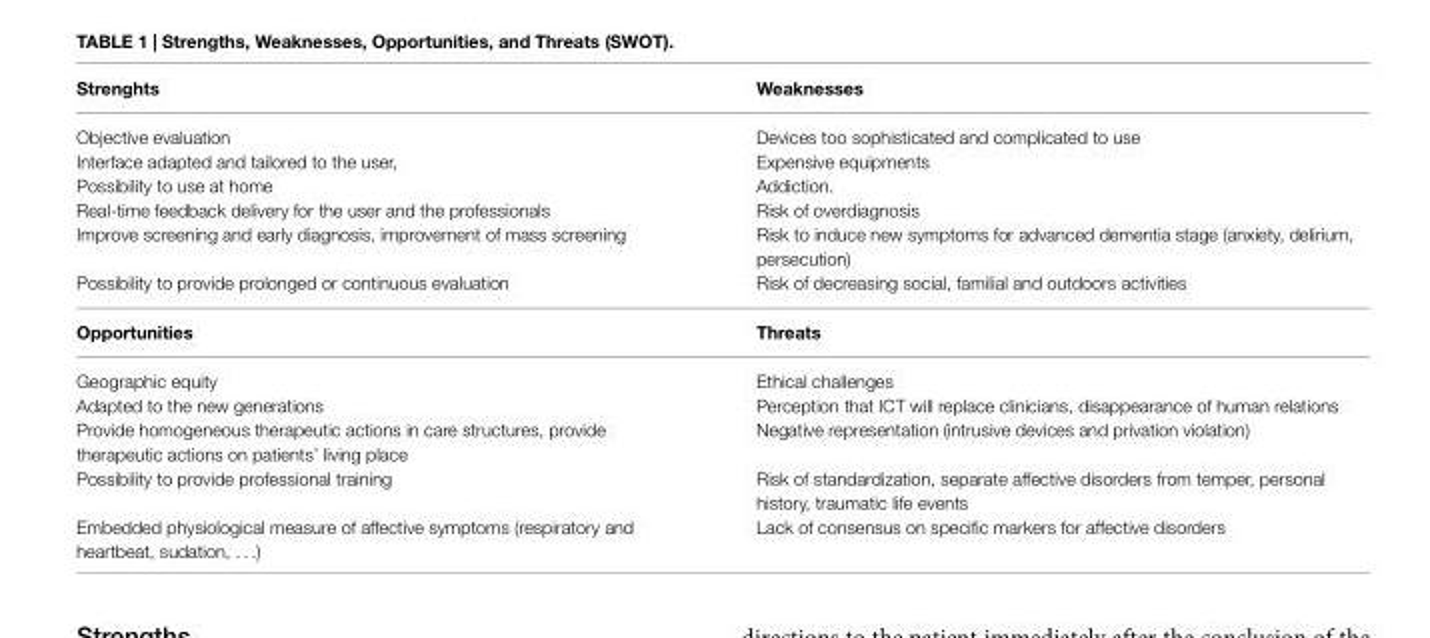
<table><thead><tr><td>Strenghts</td><td>Weaknesses</td></tr></thead><tbody><tr><td>Objective evaluation</td><td>Devices too sophisticated and complicated to use</td></tr><tr><td>Interface adapted and tailored to the user,</td><td>Expensive equipments</td></tr><tr><td>Possibility to use at home</td><td>Addiction.</td></tr><tr><td>Real-time feedback delivery for the user and the professionals</td><td>Risk of overdiagnosis</td></tr><tr><td>Improve screening and early diagnosis, improvement of mass screening</td><td>Risk to induce new symptoms for advanced dementia stage (anxiety, delirium, persecution)</td></tr><tr><td>Possibility to provide prolonged or continuous evaluation</td><td>Risk of decreasing social, familial and outdoors activities</td></tr><tr><td>Opportunities</td><td>Threats</td></tr><tr><td>Geographic equity</td><td>Ethical challenges</td></tr><tr><td>Adapted to the new generations</td><td>Perception that ICT will replace clinicians, disappearance of human relations</td></tr><tr><td>Provide homogeneous therapeutic actions in care structures, provide therapeutic actions on patients’ living place</td><td>Negative representation (intrusive devices and privation violation)</td></tr><tr><td>Possibility to provide professional training</td><td>Risk of standardization, separate affective disorders from temper, personal history, traumatic life events</td></tr><tr><td>Embedded physiological measure of affective symptoms (respiratory and heartbeat, sudation, . . .)</td><td>Lack of consensus on specific markers for affective disorders</td></tr></tbody></table>